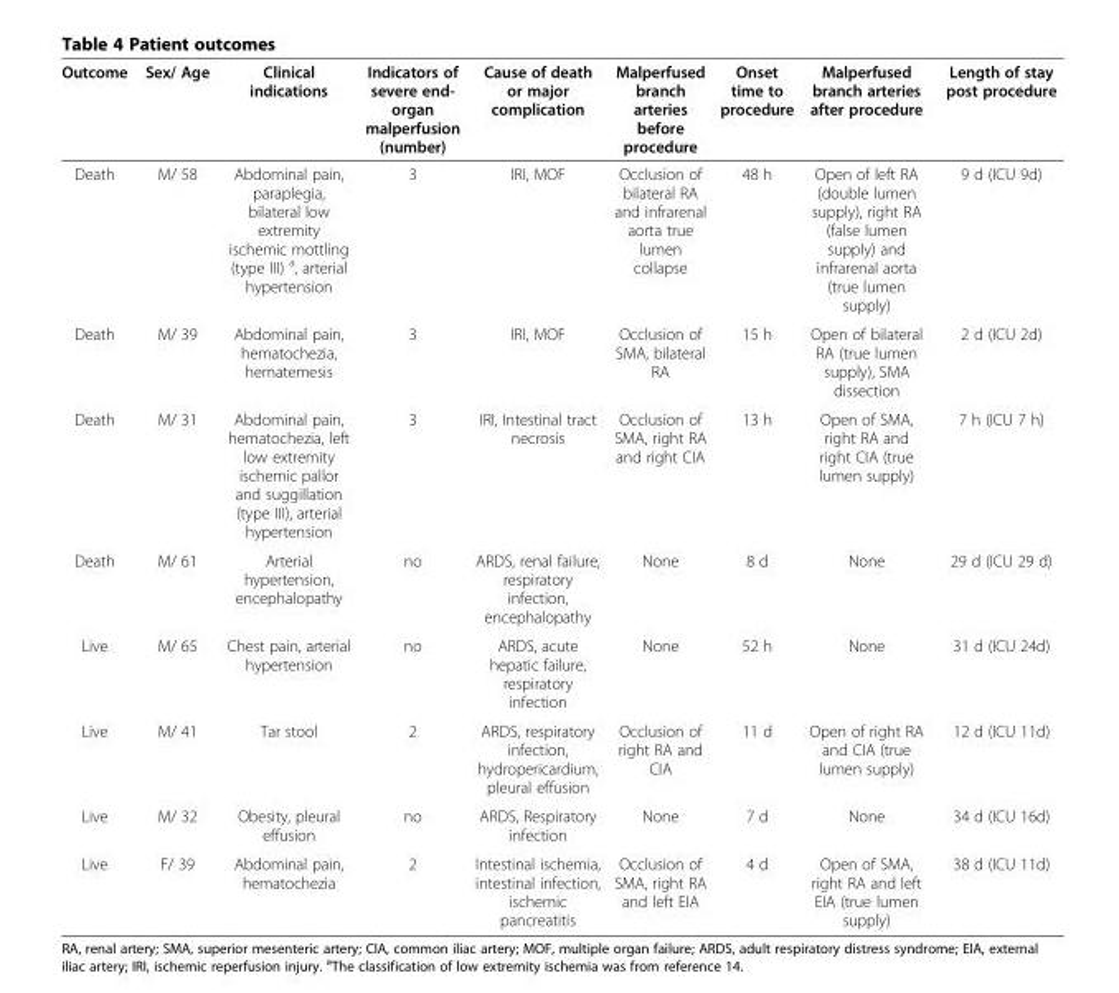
<table><thead><tr><td>Outcome</td><td>Sex/ Age</td><td>Clinical indications</td><td>Indicators of severe end- organ malperfusion (number)</td><td>Cause of death or major complication</td><td>Malperfused branch arteries before procedure</td><td>Onset time to procedure</td><td>Malperfused branch arteries after procedure</td><td>Length of stay post procedure</td></tr></thead><tbody><tr><td>Death</td><td>M/ 58</td><td>Abdominal pain, paraplegia, bilateral low extremity ischemic mottling (type III) <sup>a</sup>, arterial hypertension</td><td>3</td><td>IRI, MOF</td><td>Occlusion of bilateral RA and infrarenal aorta true lumen collapse</td><td>48 h</td><td>Open of left RA (double lumen supply), right RA (false lumen supply) and infrarenal aorta (true lumen supply)</td><td>9 d (ICU 9d)</td></tr><tr><td>Death</td><td>M/ 39</td><td>Abdominal pain, hematochezia, hematemesis</td><td>3</td><td>IRI, MOF</td><td>Occlusion of SMA, bilateral RA</td><td>15 h</td><td>Open of bilateral RA (true lumen supply), SMA dissection</td><td>2 d (ICU 2d)</td></tr><tr><td>Death</td><td>M/ 31</td><td>Abdominal pain, hematochezia, left low extremity ischemic pallor and suggillation (type III), arterial hypertension</td><td>3</td><td>IRI, Intestinal tract necrosis</td><td>Occlusion of SMA, right RA and right CIA</td><td>13 h</td><td>Open of SMA, right RA and right CIA (true lumen supply)</td><td>7 h (ICU 7 h)</td></tr><tr><td>Death</td><td>M/ 61</td><td>Arterial hypertension, encephalopathy</td><td>no</td><td>ARDS, renal failure, respiratory infection, encephalopathy</td><td>None</td><td>8 d</td><td>None</td><td>29 d (ICU 29 d)</td></tr><tr><td>Live</td><td>M/ 65</td><td>Chest pain, arterial hypertension</td><td>no</td><td>ARDS, acute hepatic failure, respiratory infection</td><td>None</td><td>52 h</td><td>None</td><td>31 d (ICU 24d)</td></tr><tr><td>Live</td><td>M/ 41</td><td>Tar stool</td><td>2</td><td>ARDS, respiratory infection, hydropericardium, pleural effusion</td><td>Occlusion of right RA and CIA</td><td>11 d</td><td>Open of right RA and CIA (true lumen supply)</td><td>12 d (ICU 11d)</td></tr><tr><td>Live</td><td>M/ 32</td><td>Obesity, pleural effusion</td><td>no</td><td>ARDS, Respiratory infection</td><td>None</td><td>7 d</td><td>None</td><td>34 d (ICU 16d)</td></tr><tr><td>Live</td><td>F/ 39</td><td>Abdominal pain, hematochezia</td><td>2</td><td>Intestinal ischemia, intestinal infection, ischemic pancreatitis</td><td>Occlusion of SMA, right RA and left EIA</td><td>4 d</td><td>Open of SMA, right RA and left EIA (true lumen supply)</td><td>38 d (ICU 11d)</td></tr></tbody></table>